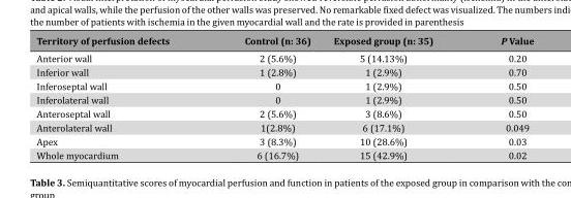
<table><thead><tr><td>Territory of perfusion defects</td><td>Control (n: 36)</td><td>Exposed group (n: 35)</td><td>P Value</td></tr></thead><tbody><tr><td>Anterior wall</td><td>2 (5.6%)</td><td>5 (14.13%)</td><td>0.20</td></tr><tr><td>Inferior wall</td><td>1 (2.8%)</td><td>1 (2.9%)</td><td>0.70</td></tr><tr><td>Inferoseptal wall</td><td>0</td><td>1 (2.9%)</td><td>0.50</td></tr><tr><td>Inferolateral wall</td><td>0</td><td>1 (2.9%)</td><td>0.50</td></tr><tr><td>Anteroseptal wall</td><td>2 (5.6%)</td><td>3 (8.6%)</td><td>0.50</td></tr><tr><td>Anterolateral wall</td><td>1(2.8%)</td><td>6 (17.1%)</td><td>0.049</td></tr><tr><td>Apex</td><td>3 (8.3%)</td><td>10 (28.6%)</td><td>0.03</td></tr><tr><td>Whole myocardium</td><td>6 (16.7%)</td><td>15 (42.9%)</td><td>0.02</td></tr></tbody></table>